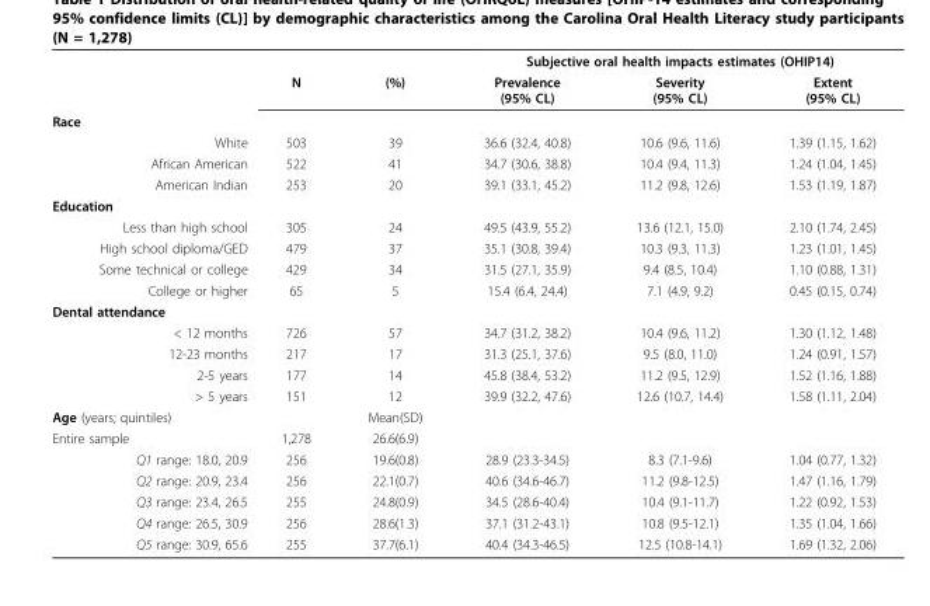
<table><thead><tr><td rowspan="2"></td><td rowspan="2">N</td><td rowspan="2">(%)</td><td colspan="3">Subjective oral health impacts estimates (OHIP14)</td></tr><tr><td>Prevalence (95% CL)</td><td>Severity (95% CL)</td><td>Extent (95% CL)</td></tr></thead><tbody><tr><td colspan="6">Race</td></tr><tr><td>White</td><td>503</td><td>39</td><td>36.6 (32.4, 40.8)</td><td>10.6 (9.6, 11.6)</td><td>1.39 (1.15, 1.62)</td></tr><tr><td>African American</td><td>522</td><td>41</td><td>34.7 (30.6, 38.8)</td><td>10.4 (9.4, 11.3)</td><td>1.24 (1.04, 1.45)</td></tr><tr><td>American Indian</td><td>253</td><td>20</td><td>39.1 (33.1, 45.2)</td><td>11.2 (9.8, 12.6)</td><td>1.53 (1.19, 1.87)</td></tr><tr><td colspan="6">Education</td></tr><tr><td>Less than high school</td><td>305</td><td>24</td><td>49.5 (43.9, 55.2)</td><td>13.6 (12.1, 15.0)</td><td>2.10 (1.74, 2.45)</td></tr><tr><td>High school diploma/GED</td><td>479</td><td>37</td><td>35.1 (30.8, 39.4)</td><td>10.3 (9.3, 11.3)</td><td>1.23 (1.01, 1.45)</td></tr><tr><td>Some technical or college</td><td>429</td><td>34</td><td>31.5 (27.1, 35.9)</td><td>9.4 (8.5, 10.4)</td><td>1.10 (0.88, 1.31)</td></tr><tr><td>College or higher</td><td>65</td><td>5</td><td>15.4 (6.4, 24.4)</td><td>7.1 (4.9, 9.2)</td><td>0.45 (0.15, 0.74)</td></tr><tr><td colspan="6">Dental attendance</td></tr><tr><td>&lt; 12 months</td><td>726</td><td>57</td><td>34.7 (31.2, 38.2)</td><td>10.4 (9.6, 11.2)</td><td>1.30 (1.12, 1.48)</td></tr><tr><td>12-23 months</td><td>217</td><td>17</td><td>31.3 (25.1, 37.6)</td><td>9.5 (8.0, 11.0)</td><td>1.24 (0.91, 1.57)</td></tr><tr><td>2-5 years</td><td>177</td><td>14</td><td>45.8 (38.4, 53.2)</td><td>11.2 (9.5, 12.9)</td><td>1.52 (1.16, 1.88)</td></tr><tr><td>&gt; 5 years</td><td>151</td><td>12</td><td>39.9 (32.2, 47.6)</td><td>12.6 (10.7, 14.4)</td><td>1.58 (1.11, 2.04)</td></tr><tr><td>Age (years; quintiles)</td><td></td><td>Mean(SD)</td><td></td><td></td><td></td></tr><tr><td>Entire sample</td><td>1,278</td><td>26.6(6.9)</td><td></td><td></td><td></td></tr><tr><td>Q1 range: 18.0, 20.9</td><td>256</td><td>19.6(0.8)</td><td>28.9 (23.3-34.5)</td><td>8.3 (7.1-9.6)</td><td>1.04 (0.77, 1.32)</td></tr><tr><td>Q2 range: 20.9, 23.4</td><td>256</td><td>22.1(0.7)</td><td>40.6 (34.6-46.7)</td><td>11.2 (9.8-12.5)</td><td>1.47 (1.16, 1.79)</td></tr><tr><td>Q3 range: 23.4, 26.5</td><td>255</td><td>24.8(0.9)</td><td>34.5 (28.6-40.4)</td><td>10.4 (9.1-11.7)</td><td>1.22 (0.92, 1.53)</td></tr><tr><td>Q4 range: 26.5, 30.9</td><td>256</td><td>28.6(1.3)</td><td>37.1 (31.2-43.1)</td><td>10.8 (9.5-12.1)</td><td>1.35 (1.04, 1.66)</td></tr><tr><td>Q5 range: 30.9, 65.6</td><td>255</td><td>37.7(6.1)</td><td>40.4 (34.3-46.5)</td><td>12.5 (10.8-14.1)</td><td>1.69 (1.32, 2.06)</td></tr></tbody></table>